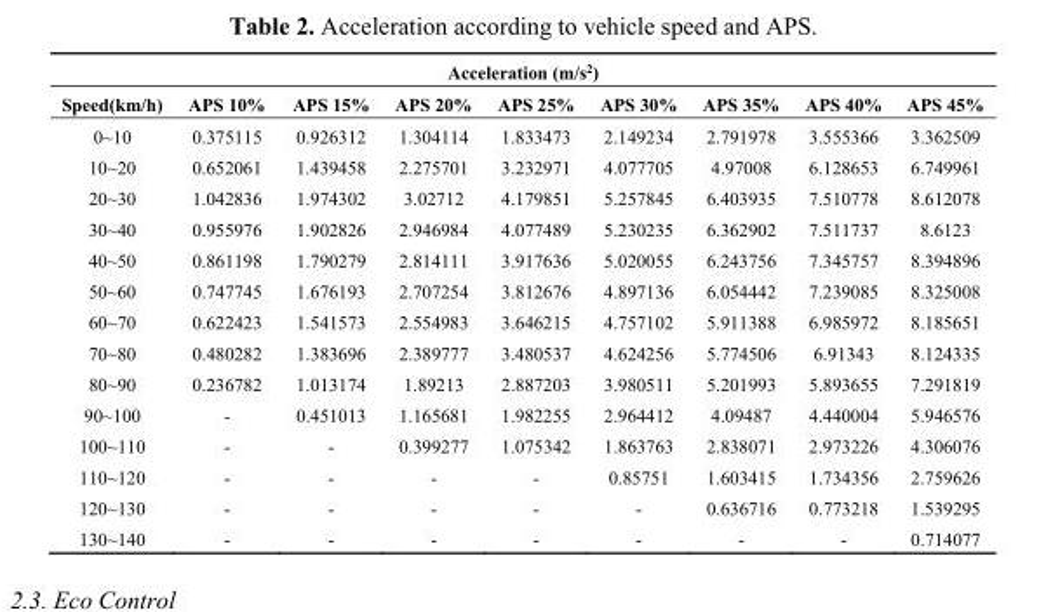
<table><thead><tr><td colspan="9">Acceleration (m/s<sup>2</sup>)</td></tr><tr><td>Speed(km/h)</td><td>APS 10%</td><td>APS 15%</td><td>APS 20%</td><td>APS 25%</td><td>APS 30%</td><td>APS 35%</td><td>APS 40%</td><td>APS 45%</td></tr></thead><tbody><tr><td>0~10</td><td>0.375115</td><td>0.926312</td><td>1.304114</td><td>1.833473</td><td>2.149234</td><td>2.791978</td><td>3.555366</td><td>3.362509</td></tr><tr><td>10~20</td><td>0.652061</td><td>1.439458</td><td>2.275701</td><td>3.232971</td><td>4.077705</td><td>4.97008</td><td>6.128653</td><td>6.749961</td></tr><tr><td>20~30</td><td>1.042836</td><td>1.974302</td><td>3.02712</td><td>4.179851</td><td>5.257845</td><td>6.403935</td><td>7.510778</td><td>8.612078</td></tr><tr><td>30~40</td><td>0.955976</td><td>1.902826</td><td>2.946984</td><td>4.077489</td><td>5.230235</td><td>6.362902</td><td>7.511737</td><td>8.6123</td></tr><tr><td>40~50</td><td>0.861198</td><td>1.790279</td><td>2.814111</td><td>3.917636</td><td>5.020055</td><td>6.243756</td><td>7.345757</td><td>8.394896</td></tr><tr><td>50~60</td><td>0.747745</td><td>1.676193</td><td>2.707254</td><td>3.812676</td><td>4.897136</td><td>6.054442</td><td>7.239085</td><td>8.325008</td></tr><tr><td>60~70</td><td>0.622423</td><td>1.541573</td><td>2.554983</td><td>3.646215</td><td>4.757102</td><td>5.911388</td><td>6.985972</td><td>8.185651</td></tr><tr><td>70~80</td><td>0.480282</td><td>1.383696</td><td>2.389777</td><td>3.480537</td><td>4.624256</td><td>5.774506</td><td>6.91343</td><td>8.124335</td></tr><tr><td>80~90</td><td>0.236782</td><td>1.013174</td><td>1.89213</td><td>2.887203</td><td>3.980511</td><td>5.201993</td><td>5.893655</td><td>7.291819</td></tr><tr><td>90~100</td><td>-</td><td>0.451013</td><td>1.165681</td><td>1.982255</td><td>2.964412</td><td>4.09487</td><td>4.440004</td><td>5.946576</td></tr><tr><td>100~110</td><td>-</td><td>-</td><td>0.399277</td><td>1.075342</td><td>1.863763</td><td>2.838071</td><td>2.973226</td><td>4.306076</td></tr><tr><td>110~120</td><td>-</td><td>-</td><td>-</td><td>-</td><td>0.85751</td><td>1.603415</td><td>1.734356</td><td>2.759626</td></tr><tr><td>120~130</td><td>-</td><td>-</td><td>-</td><td>-</td><td>-</td><td>0.636716</td><td>0.773218</td><td>1.539295</td></tr><tr><td>130~140</td><td>-</td><td>-</td><td>-</td><td>-</td><td>-</td><td>-</td><td>-</td><td>0.714077</td></tr></tbody></table>